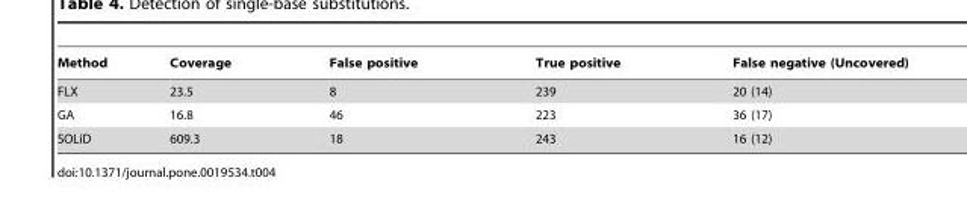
<table><thead><tr><td>Method</td><td>Coverage</td><td>False positive</td><td>True positive</td><td>False negative (Uncovered)</td></tr></thead><tbody><tr><td>FLX</td><td>23.5</td><td>8</td><td>239</td><td>20 (14)</td></tr><tr><td>GA</td><td>16.8</td><td>46</td><td>223</td><td>36 (17)</td></tr><tr><td>SOLiD</td><td>609.3</td><td>18</td><td>243</td><td>16 (12)</td></tr></tbody></table>